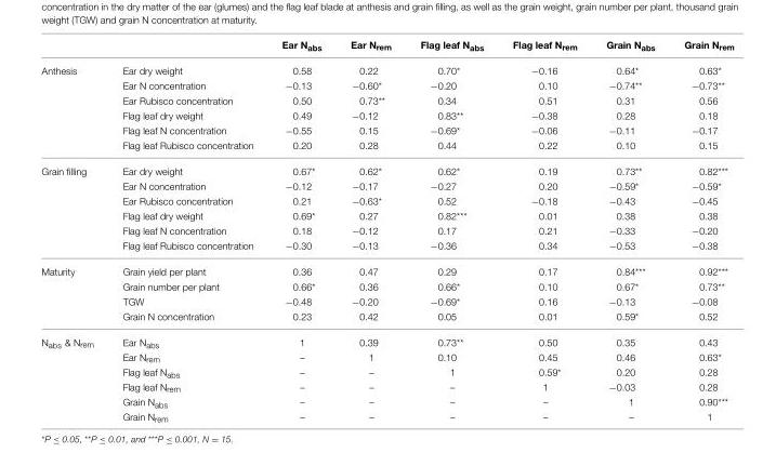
<table><thead><tr><td></td><td></td><td>Ear N<sub>abs</sub></td><td>Ear N<sub>rem</sub></td><td>Flag leaf N<sub>abs</sub></td><td>Flag leaf N<sub>rem</sub></td><td>Grain N<sub>abs</sub></td><td>Grain N<sub>rem</sub></td></tr></thead><tbody><tr><td rowspan="6">Anthesis</td><td>Ear dry weight</td><td>0.58</td><td>0.22</td><td>0.70*</td><td>−0.16</td><td>0.64*</td><td>0.63*</td></tr><tr><td>Ear N concentration</td><td>−0.13</td><td>−0.60*</td><td>−0.20</td><td>0.10</td><td>−0.74**</td><td>−0.73**</td></tr><tr><td>Ear Rubisco concentration</td><td>0.50</td><td>0.73**</td><td>0.34</td><td>0.51</td><td>0.31</td><td>0.56</td></tr><tr><td>Flag leaf dry weight</td><td>0.49</td><td>−0.12</td><td>0.83**</td><td>−0.38</td><td>0.28</td><td>0.18</td></tr><tr><td>Flag leaf N concentration</td><td>−0.55</td><td>0.15</td><td>−0.69*</td><td>−0.06</td><td>−0.11</td><td>−0.17</td></tr><tr><td>Flag leaf Rubisco concentration</td><td>0.20</td><td>0.28</td><td>0.44</td><td>0.22</td><td>0.10</td><td>0.15</td></tr><tr><td rowspan="6">Grain filling</td><td>Ear dry weight</td><td>0.67*</td><td>0.62*</td><td>0.62*</td><td>0.19</td><td>0.73**</td><td>0.82***</td></tr><tr><td>Ear N concentration</td><td>−0.12</td><td>−0.17</td><td>−0.27</td><td>0.20</td><td>−0.59*</td><td>−0.59*</td></tr><tr><td>Ear Rubisco concentration</td><td>0.21</td><td>−0.63*</td><td>0.52</td><td>−0.18</td><td>−0.43</td><td>−0.45</td></tr><tr><td>Flag leaf dry weight</td><td>0.69*</td><td>0.27</td><td>0.82***</td><td>0.01</td><td>0.38</td><td>0.38</td></tr><tr><td>Flag leaf N concentration</td><td>0.18</td><td>−0.12</td><td>0.17</td><td>0.21</td><td>−0.33</td><td>−0.20</td></tr><tr><td>Flag leaf Rubisco concentration</td><td>−0.30</td><td>−0.13</td><td>−0.36</td><td>0.34</td><td>−0.53</td><td>−0.38</td></tr><tr><td rowspan="4">Maturity</td><td>Grain yield per plant</td><td>0.36</td><td>0.47</td><td>0.29</td><td>0.17</td><td>0.84***</td><td>0.92***</td></tr><tr><td>Grain number per plant</td><td>0.66*</td><td>0.36</td><td>0.66*</td><td>0.10</td><td>0.67*</td><td>0.73**</td></tr><tr><td>TGW</td><td>−0.48</td><td>−0.20</td><td>−0.69*</td><td>0.16</td><td>−0.13</td><td>−0.08</td></tr><tr><td>Grain N concentration</td><td>0.23</td><td>0.42</td><td>0.05</td><td>0.01</td><td>0.59*</td><td>0.52</td></tr><tr><td rowspan="6">N<sub>abs</sub> &amp; N<sub>rem</sub></td><td>Ear N<sub>abs</sub></td><td>1</td><td>0.39</td><td>0.73**</td><td>0.50</td><td>0.35</td><td>0.43</td></tr><tr><td>Ear N<sub>rem</sub></td><td>–</td><td>1</td><td>0.10</td><td>0.45</td><td>0.46</td><td>0.63*</td></tr><tr><td>Flag leaf N<sub>abs</sub></td><td>–</td><td>–</td><td>1</td><td>0.59*</td><td>0.20</td><td>0.28</td></tr><tr><td>Flag leaf N<sub>rem</sub></td><td>–</td><td>–</td><td>–</td><td>1</td><td>−0.03</td><td>0.28</td></tr><tr><td>Grain N<sub>abs</sub></td><td>–</td><td>–</td><td>–</td><td>–</td><td>1</td><td>0.90***</td></tr><tr><td>Grain N<sub>rem</sub></td><td>–</td><td>–</td><td>–</td><td>–</td><td>–</td><td>1</td></tr></tbody></table>